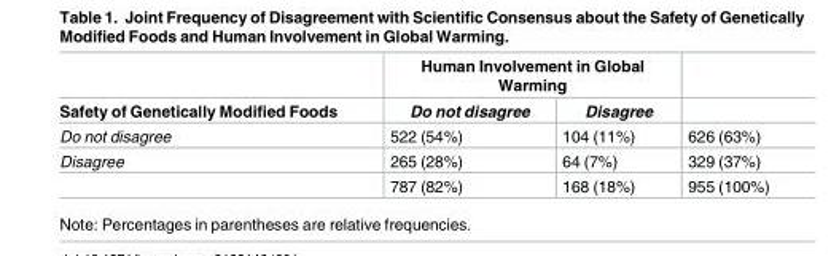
<table><thead><tr><td rowspan="2">Safety of Genetically Modified Foods</td><td colspan="2">Human Involvement in Global Warming</td><td rowspan="2"></td></tr><tr><td>Do not disagree</td><td>Disagree</td></tr></thead><tbody><tr><td>Do not disagree</td><td>522 (54%)</td><td>104 (11%)</td><td>626 (63%)</td></tr><tr><td rowspan="2">Disagree</td><td>265 (28%)</td><td>64 (7%)</td><td>329 (37%)</td></tr><tr><td>787 (82%)</td><td>168 (18%)</td><td>955 (100%)</td></tr></tbody></table>